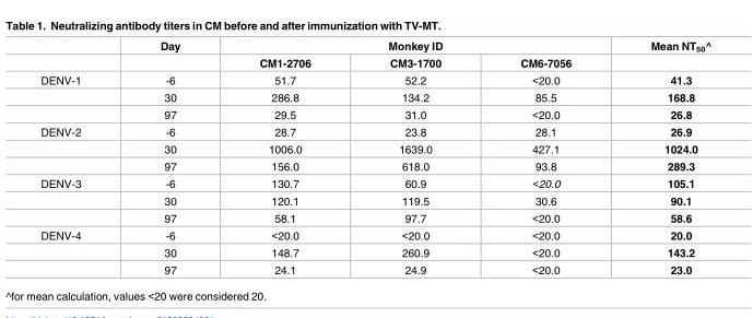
<table><thead><tr><td rowspan="2"></td><td rowspan="2">Day</td><td colspan="3">Monkey ID</td><td rowspan="2">Mean NT<sub>50</sub>^</td></tr><tr><td>CM1-2706</td><td>CM3-1700</td><td>CM6-7056</td></tr></thead><tbody><tr><td rowspan="3">DENV-1</td><td>-6</td><td>51.7</td><td>52.2</td><td>&lt;20.0</td><td>41.3</td></tr><tr><td>30</td><td>286.8</td><td>134.2</td><td>85.5</td><td>168.8</td></tr><tr><td>97</td><td>29.5</td><td>31.0</td><td>&lt;20.0</td><td>26.8</td></tr><tr><td rowspan="3">DENV-2</td><td>-6</td><td>28.7</td><td>23.8</td><td>28.1</td><td>26.9</td></tr><tr><td>30</td><td>1006.0</td><td>1639.0</td><td>427.1</td><td>1024.0</td></tr><tr><td>97</td><td>156.0</td><td>618.0</td><td>93.8</td><td>289.3</td></tr><tr><td rowspan="3">DENV-3</td><td>-6</td><td>130.7</td><td>60.9</td><td>&lt;20.0</td><td>105.1</td></tr><tr><td>30</td><td>120.1</td><td>119.5</td><td>30.6</td><td>90.1</td></tr><tr><td>97</td><td>58.1</td><td>97.7</td><td>&lt;20.0</td><td>58.6</td></tr><tr><td rowspan="3">DENV-4</td><td>-6</td><td>&lt;20.0</td><td>&lt;20.0</td><td>&lt;20.0</td><td>20.0</td></tr><tr><td>30</td><td>148.7</td><td>260.9</td><td>&lt;20.0</td><td>143.2</td></tr><tr><td>97</td><td>24.1</td><td>24.9</td><td>&lt;20.0</td><td>23.0</td></tr></tbody></table>